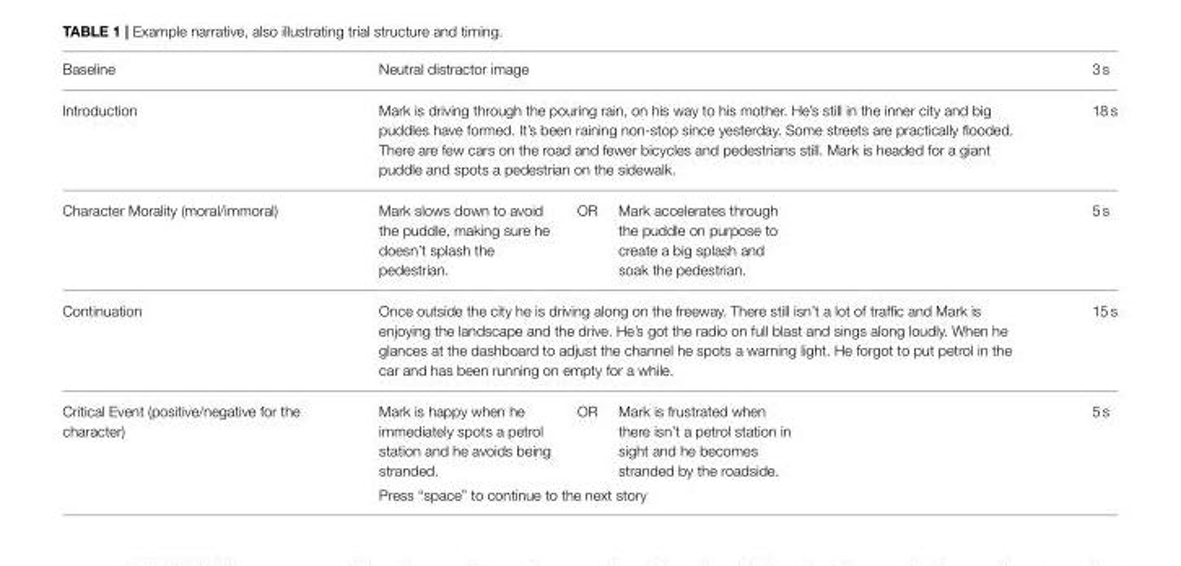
<table><tbody><tr><td>Baseline</td><td colspan="3">Neutral distractor image</td><td>3 s</td></tr><tr><td>Introduction</td><td colspan="3">Mark is driving through the pouring rain, on his way to his mother. He’s still in the inner city and big puddles have formed. It’s been raining non-stop since yesterday. Some streets are practically flooded. There are few cars on the road and fewer bicycles and pedestrians still. Mark is headed for a giant puddle and spots a pedestrian on the sidewalk.</td><td>18 s</td></tr><tr><td>Character Morality (moral/immoral)</td><td>Mark slows down to avoid the puddle, making sure he doesn’t splash the pedestrian.</td><td>OR</td><td>Mark accelerates through the puddle on purpose to create a big splash and soak the pedestrian.</td><td>5 s</td></tr><tr><td>Continuation</td><td colspan="3">Once outside the city he is driving along on the freeway. There still isn’t a lot of traffic and Mark is enjoying the landscape and the drive. He’s got the radio on full blast and sings along loudly. When he glances at the dashboard to adjust the channel he spots a warning light. He forgot to put petrol in the car and has been running on empty for a while.</td><td>15 s</td></tr><tr><td rowspan="2">Critical Event (positive/negative for the character)</td><td>Mark is happy when he immediately spots a petrol station and he avoids being stranded.</td><td>OR</td><td>Mark is frustrated when there isn’t a petrol station in sight and he becomes stranded by the roadside.</td><td>5 s</td></tr><tr><td colspan="3">Press “space” to continue to the next story</td><td></td></tr></tbody></table>